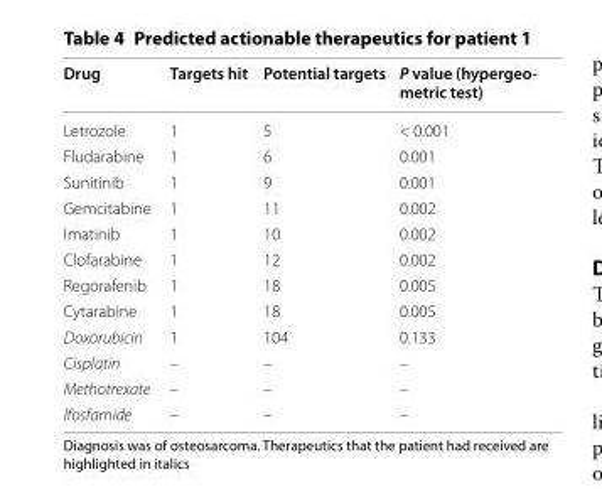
<table><thead><tr><td>Drug</td><td>Targets hit</td><td>Potential targets</td><td>P value (hypergeo‑ metric test)</td></tr></thead><tbody><tr><td>Letrozole</td><td>1</td><td>5</td><td>&lt; 0.001</td></tr><tr><td>Fludarabine</td><td>1</td><td>6</td><td>0.001</td></tr><tr><td>Sunitinib</td><td>1</td><td>9</td><td>0.001</td></tr><tr><td>Gemcitabine</td><td>1</td><td>11</td><td>0.002</td></tr><tr><td>Imatinib</td><td>1</td><td>10</td><td>0.002</td></tr><tr><td>Clofarabine</td><td>1</td><td>12</td><td>0.002</td></tr><tr><td>Regorafenib</td><td>1</td><td>18</td><td>0.005</td></tr><tr><td>Cytarabine</td><td>1</td><td>18</td><td>0.005</td></tr><tr><td>Doxorubicin</td><td>1</td><td>104</td><td>0.133</td></tr><tr><td>Cisplatin</td><td>–</td><td>–</td><td>–</td></tr><tr><td>Methotrexate</td><td>–</td><td>–</td><td>–</td></tr><tr><td>Ifosfamide</td><td>–</td><td>–</td><td>–</td></tr></tbody></table>